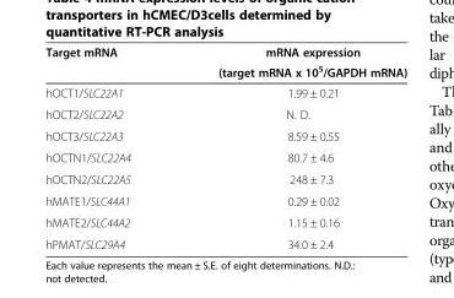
<table><thead><tr><td rowspan="2">Target mRNA</td><td rowspan="2">mRNA expression (target mRNA x 10<sup>5</sup>/GAPDH mRNA)</td></tr><tr></tr></thead><tbody><tr><td>hOCT1/SLC22A1</td><td>1.99 ± 0.21</td></tr><tr><td>hOCT2/SLC22A2</td><td>N. D.</td></tr><tr><td>hOCT3/SLC22A3</td><td>8.59 ± 0.55</td></tr><tr><td>hOCTN1/SLC22A4</td><td>80.7 ± 4.6</td></tr><tr><td>hOCTN2/SLC22A5</td><td>248 ± 7.3</td></tr><tr><td>hMATE1/SLC44A1</td><td>0.29 ± 0.02</td></tr><tr><td>hMATE2/SLC44A2</td><td>1.15 ± 0.16</td></tr><tr><td>hPMAT/SLC29A4</td><td>34.0 ± 2.4</td></tr></tbody></table>